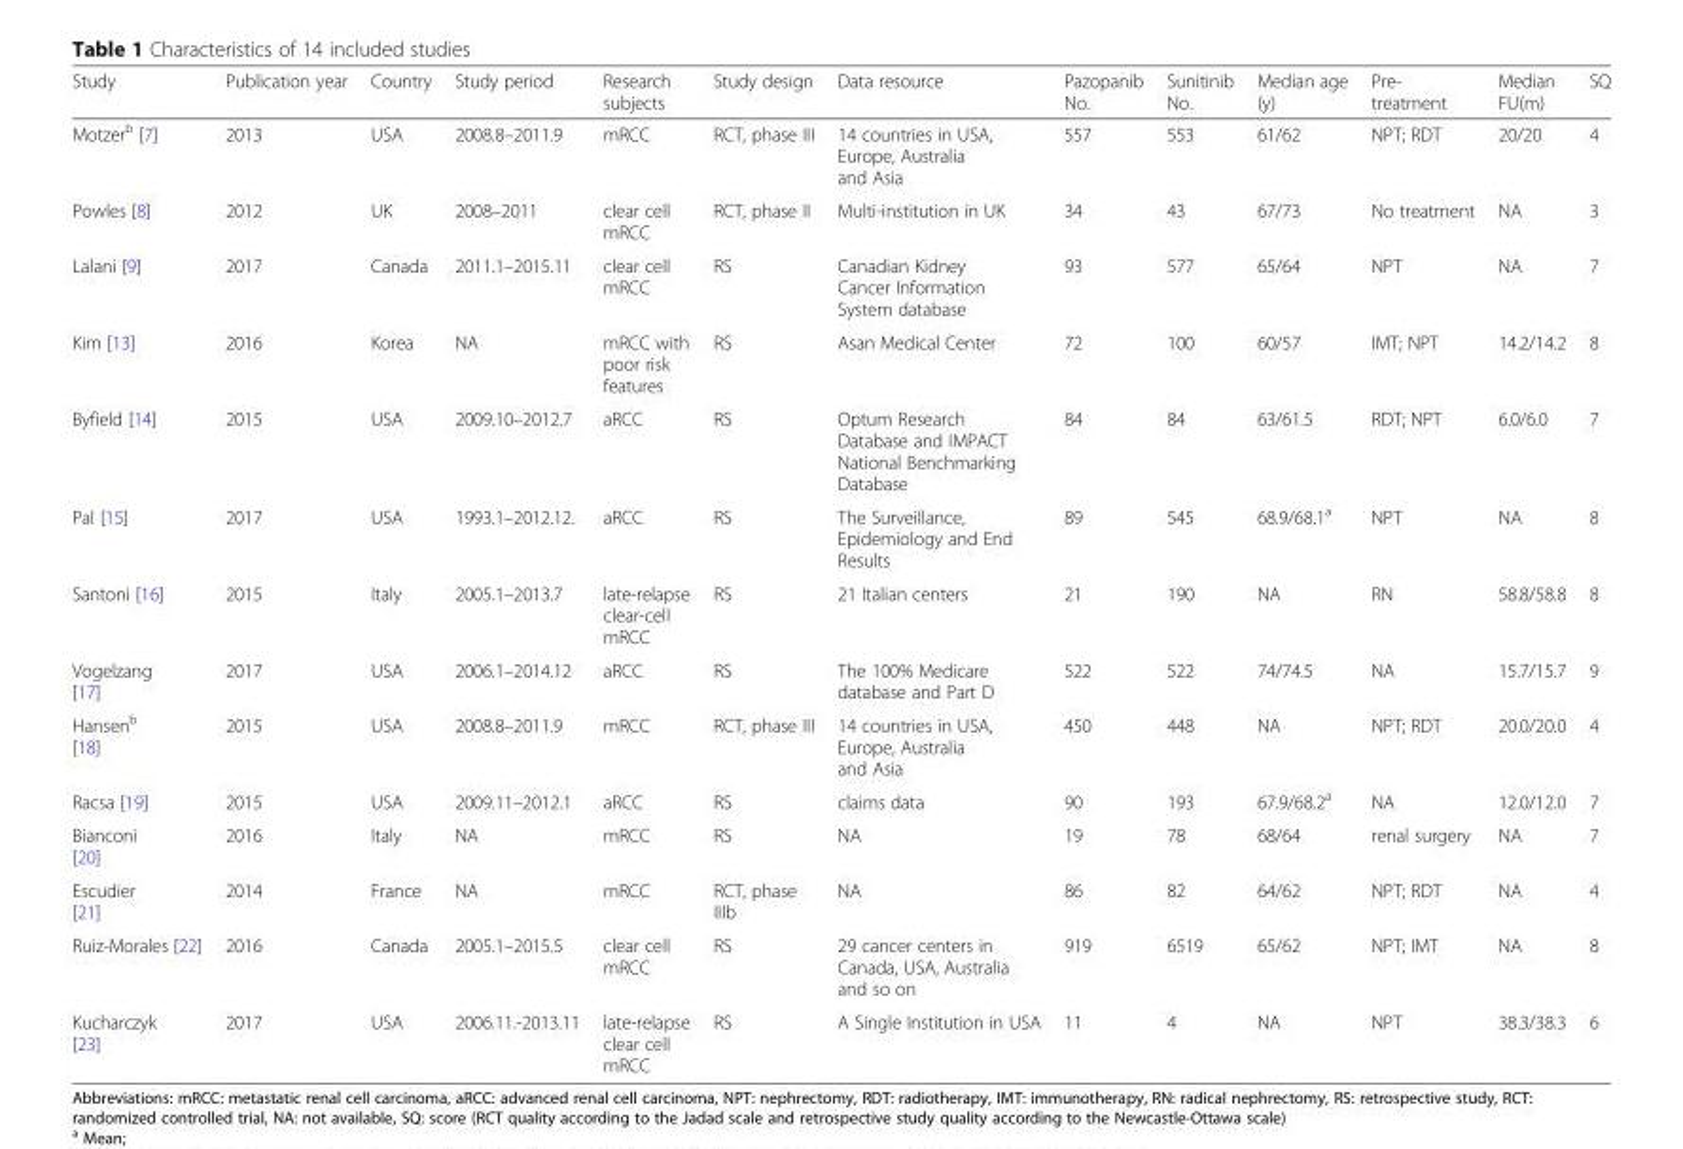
<table><thead><tr><td>Study</td><td>Publication year</td><td>Country</td><td>Study period</td><td>Research subjects</td><td>Study design</td><td>Data resource</td><td>Pazopanib No.</td><td>Sunitinib No.</td><td>Median age (y)</td><td>Pre- treatment</td><td>Median FU(m)</td><td>SQ</td></tr></thead><tbody><tr><td>Motzer<sup>b</sup> [7]</td><td>2013</td><td>USA</td><td>2008.8–2011.9</td><td>mRCC</td><td>RCT, phase III</td><td>14 countries in USA, Europe, Australia and Asia</td><td>557</td><td>553</td><td>61/62</td><td>NPT; RDT</td><td>20/20</td><td>4</td></tr><tr><td>Powles [8]</td><td>2012</td><td>UK</td><td>2008–2011</td><td>clear cell mRCC</td><td>RCT, phase II</td><td>Multi-institution in UK</td><td>34</td><td>43</td><td>67/73</td><td>No treatment</td><td>NA</td><td>3</td></tr><tr><td>Lalani [9]</td><td>2017</td><td>Canada</td><td>2011.1–2015.11</td><td>clear cell mRCC</td><td>RS</td><td>Canadian Kidney Cancer Information System database</td><td>93</td><td>577</td><td>65/64</td><td>NPT</td><td>NA</td><td>7</td></tr><tr><td>Kim [13]</td><td>2016</td><td>Korea</td><td>NA</td><td>mRCC with poor risk features</td><td>RS</td><td>Asan Medical Center</td><td>72</td><td>100</td><td>60/57</td><td>IMT; NPT</td><td>14.2/14.2</td><td>8</td></tr><tr><td>Byfield [14]</td><td>2015</td><td>USA</td><td>2009.10–2012.7</td><td>aRCC</td><td>RS</td><td>Optum Research Database and IMPACT National Benchmarking Database</td><td>84</td><td>84</td><td>63/61.5</td><td>RDT; NPT</td><td>6.0/6.0</td><td>7</td></tr><tr><td>Pal [15]</td><td>2017</td><td>USA</td><td>1993.1–2012.12.</td><td>aRCC</td><td>RS</td><td>The Surveillance, Epidemiology and End Results</td><td>89</td><td>545</td><td>68.9/68.1<sup>a</sup></td><td>NPT</td><td>NA</td><td>8</td></tr><tr><td>Santoni [16]</td><td>2015</td><td>Italy</td><td>2005.1–2013.7</td><td>late-relapse clear-cell mRCC</td><td>RS</td><td>21 Italian centers</td><td>21</td><td>190</td><td>NA</td><td>RN</td><td>58.8/58.8</td><td>8</td></tr><tr><td>Vogelzang [17]</td><td>2017</td><td>USA</td><td>2006.1–2014.12</td><td>aRCC</td><td>RS</td><td>The 100% Medicare database and Part D</td><td>522</td><td>522</td><td>74/74.5</td><td>NA</td><td>15.7/15.7</td><td>9</td></tr><tr><td>Hansen<sup>b</sup> [18]</td><td>2015</td><td>USA</td><td>2008.8–2011.9</td><td>mRCC</td><td>RCT, phase III</td><td>14 countries in USA, Europe, Australia and Asia</td><td>450</td><td>448</td><td>NA</td><td>NPT; RDT</td><td>20.0/20.0</td><td>4</td></tr><tr><td>Racsa [19]</td><td>2015</td><td>USA</td><td>2009.11–2012.1</td><td>aRCC</td><td>RS</td><td>claims data</td><td>90</td><td>193</td><td>67.9/68.2<sup>a</sup></td><td>NA</td><td>12.0/12.0</td><td>7</td></tr><tr><td>Bianconi [20]</td><td>2016</td><td>Italy</td><td>NA</td><td>mRCC</td><td>RS</td><td>NA</td><td>19</td><td>78</td><td>68/64</td><td>renal surgery</td><td>NA</td><td>7</td></tr><tr><td>Escudier [21]</td><td>2014</td><td>France</td><td>NA</td><td>mRCC</td><td>RCT, phase IIIb</td><td>NA</td><td>86</td><td>82</td><td>64/62</td><td>NPT; RDT</td><td>NA</td><td>4</td></tr><tr><td>Ruiz-Morales [22]</td><td>2016</td><td>Canada</td><td>2005.1–2015.5</td><td>clear cell mRCC</td><td>RS</td><td>29 cancer centers in Canada, USA, Australia and so on</td><td>919</td><td>6519</td><td>65/62</td><td>NPT; IMT</td><td>NA</td><td>8</td></tr><tr><td>Kucharczyk [23]</td><td>2017</td><td>USA</td><td>2006.11.-2013.11</td><td>late-relapse clear cell mRCC</td><td>RS</td><td>A Single Institution in USA</td><td>11</td><td>4</td><td>NA</td><td>NPT</td><td>38.3/38.3</td><td>6</td></tr></tbody></table>